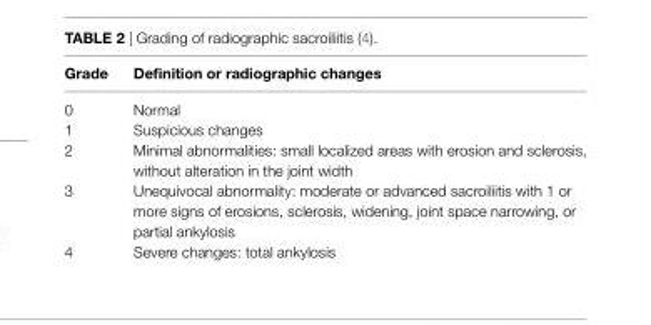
<table><thead><tr><td>Grade</td><td>Definition or radiographic changes</td></tr></thead><tbody><tr><td>0</td><td>Normal</td></tr><tr><td>1</td><td>Suspicious changes</td></tr><tr><td>2</td><td>Minimal abnormalities: small localized areas with erosion and sclerosis, without alteration in the joint width</td></tr><tr><td>3</td><td>Unequivocal abnormality: moderate or advanced sacroiliitis with 1 or more signs of erosions, sclerosis, widening, joint space narrowing, or partial ankylosis</td></tr><tr><td>4</td><td>Severe changes: total ankylosis</td></tr></tbody></table>